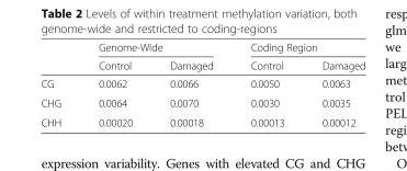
<table><thead><tr><td rowspan="2"></td><td colspan="2">Genome-Wide</td><td colspan="2">Coding Region</td></tr><tr><td>Control</td><td>Damaged</td><td>Control</td><td>Damaged</td></tr></thead><tbody><tr><td>CG</td><td>0.0062</td><td>0.0066</td><td>0.0050</td><td>0.0063</td></tr><tr><td>CHG</td><td>0.0064</td><td>0.0070</td><td>0.0030</td><td>0.0035</td></tr><tr><td>CHH</td><td>0.00020</td><td>0.00018</td><td>0.00013</td><td>0.00012</td></tr></tbody></table>